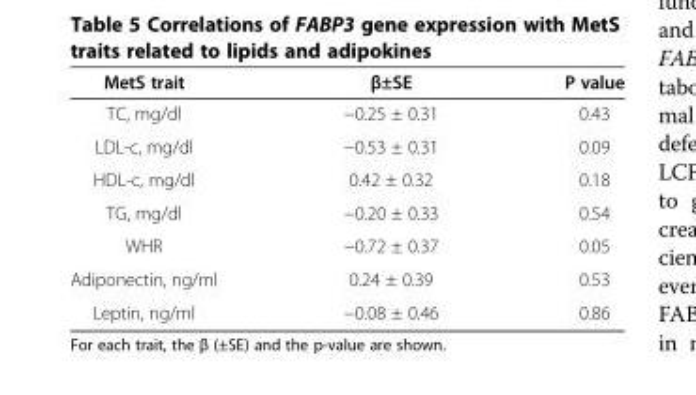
<table><thead><tr><td>MetS trait</td><td>β±SE</td><td>P value</td></tr></thead><tbody><tr><td>TC, mg/dl</td><td>−0.25 ± 0.31</td><td>0.43</td></tr><tr><td>LDL-c, mg/dl</td><td>−0.53 ± 0.31</td><td>0.09</td></tr><tr><td>HDL-c, mg/dl</td><td>0.42 ± 0.32</td><td>0.18</td></tr><tr><td>TG, mg/dl</td><td>−0.20 ± 0.33</td><td>0.54</td></tr><tr><td>WHR</td><td>−0.72 ± 0.37</td><td>0.05</td></tr><tr><td>Adiponectin, ng/ml</td><td>0.24 ± 0.39</td><td>0.53</td></tr><tr><td>Leptin, ng/ml</td><td>−0.08 ± 0.46</td><td>0.86</td></tr></tbody></table>